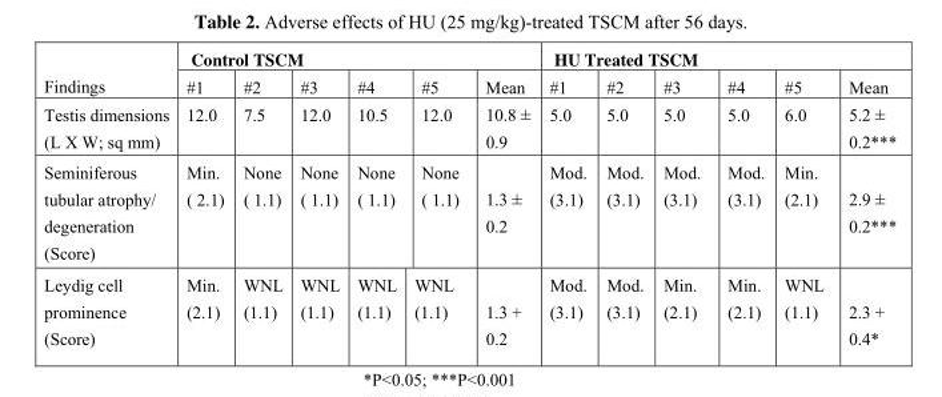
<table><thead><tr><td rowspan="2">Findings</td><td colspan="6">Control TSCM</td><td colspan="6">HU Treated TSCM</td></tr><tr><td>#1</td><td>#2</td><td>#3</td><td>#4</td><td>#5</td><td>Mean</td><td>#1</td><td>#2</td><td>#3</td><td>#4</td><td>#5</td><td>Mean</td></tr></thead><tbody><tr><td>Testis dimensions (L X W; sq mm)</td><td>12.0</td><td>7.5</td><td>12.0</td><td>10.5</td><td>12.0</td><td>10.8 ± 0.9</td><td>5.0</td><td>5.0</td><td>5.0</td><td>5.0</td><td>6.0</td><td>5.2 ± 0.2***</td></tr><tr><td>Seminiferous tubular atrophy/ degeneration (Score)</td><td>Min. ( 2.1)</td><td>None ( 1.1)</td><td>None ( 1.1)</td><td>None ( 1.1)</td><td>None ( 1.1)</td><td>1.3 ± 0.2</td><td>Mod. (3.1)</td><td>Mod. (3.1)</td><td>Mod. (3.1)</td><td>Mod. (3.1)</td><td>Min. (2.1)</td><td>2.9 ± 0.2***</td></tr><tr><td>Leydig cell prominence (Score)</td><td>Min. (2.1)</td><td>WNL (1.1)</td><td>WNL (1.1)</td><td>WNL (1.1)</td><td>WNL (1.1)</td><td>1.3 + 0.2</td><td>Mod. (3.1)</td><td>Mod. (3.1)</td><td>Min. (2.1)</td><td>Min. (2.1)</td><td>WNL (1.1)</td><td>2.3 + 0.4*</td></tr></tbody></table>